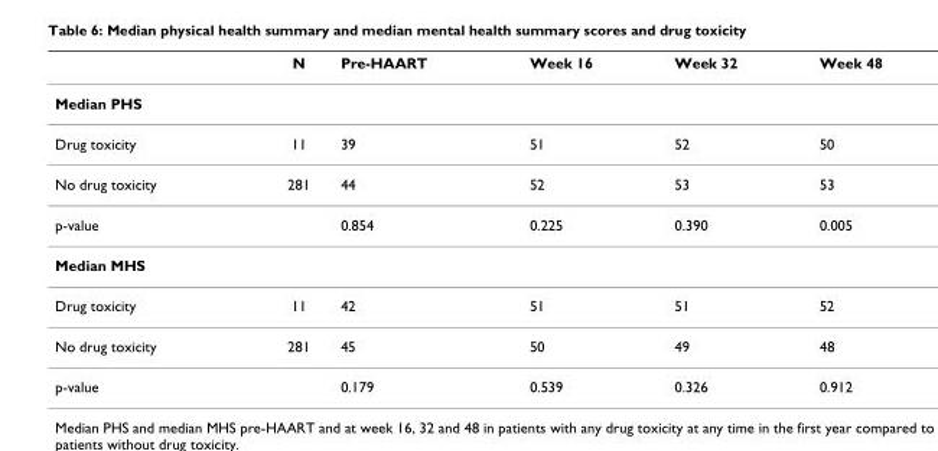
<table><thead><tr><td></td><td>N</td><td>Pre-HAART</td><td>Week 16</td><td>Week 32</td><td>Week 48</td></tr></thead><tbody><tr><td colspan="6">Median PHS</td></tr><tr><td>Drug toxicity</td><td>11</td><td>39</td><td>51</td><td>52</td><td>50</td></tr><tr><td>No drug toxicity</td><td>281</td><td>44</td><td>52</td><td>53</td><td>53</td></tr><tr><td>p-value</td><td></td><td>0.854</td><td>0.225</td><td>0.390</td><td>0.005</td></tr><tr><td colspan="6">Median MHS</td></tr><tr><td>Drug toxicity</td><td>11</td><td>42</td><td>51</td><td>51</td><td>52</td></tr><tr><td>No drug toxicity</td><td>281</td><td>45</td><td>50</td><td>49</td><td>48</td></tr><tr><td>p-value</td><td></td><td>0.179</td><td>0.539</td><td>0.326</td><td>0.912</td></tr></tbody></table>